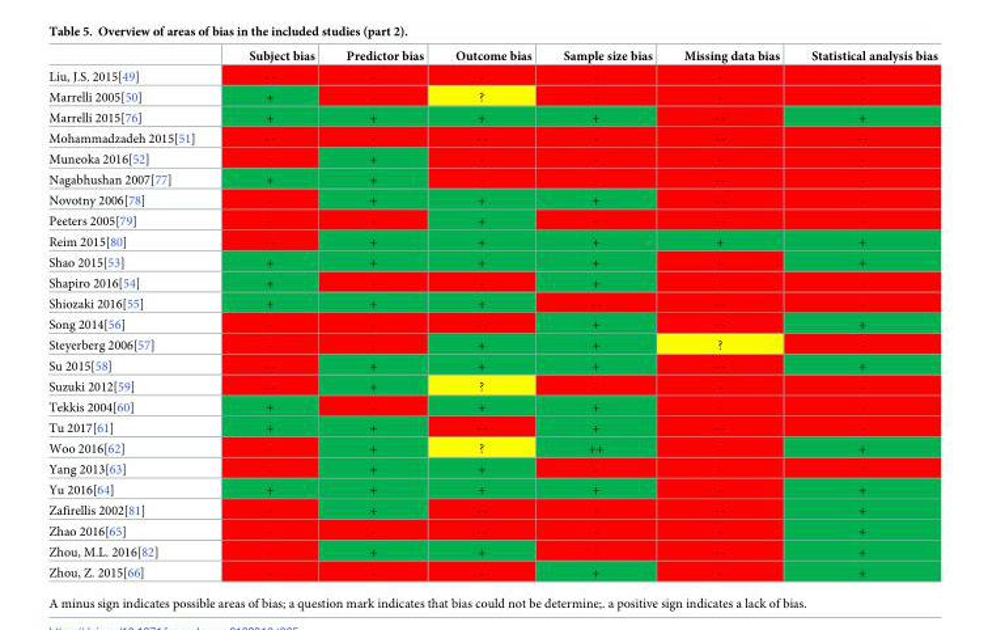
<table><thead><tr><td></td><td>Subject bias</td><td>Predictor bias</td><td>Outcome bias</td><td>Sample size bias</td><td>Missing data bias</td><td>Statistical analysis bias</td></tr></thead><tbody><tr><td>Liu, J.S. 2015[49]</td><td>--</td><td>-</td><td>-</td><td>-</td><td>-</td><td>-</td></tr><tr><td>Marrelli 2005[50]</td><td>+</td><td>-</td><td>?</td><td>-</td><td>-</td><td>-</td></tr><tr><td>Marrelli 2015[76]</td><td>+</td><td>+</td><td>+</td><td>+</td><td>--</td><td>+</td></tr><tr><td>Mohammadzadeh 2015[51]</td><td>--</td><td>-</td><td>--</td><td>-</td><td>--</td><td>--</td></tr><tr><td>Muneoka 2016[52]</td><td>-</td><td>+</td><td>-</td><td>-</td><td>-</td><td>-</td></tr><tr><td>Nagabhushan 2007[77]</td><td>+</td><td>+</td><td>-</td><td>-</td><td>--</td><td>-</td></tr><tr><td>Novotny 2006[78]</td><td>-</td><td>+</td><td>+</td><td>+</td><td>--</td><td>-</td></tr><tr><td>Peeters 2005[79]</td><td>-</td><td>-</td><td>+</td><td>-</td><td>--</td><td>-</td></tr><tr><td>Reim 2015[80]</td><td>--</td><td>+</td><td>+</td><td>+</td><td>+</td><td>+</td></tr><tr><td>Shao 2015[53]</td><td>+</td><td>+</td><td>+</td><td>+</td><td>-</td><td>+</td></tr><tr><td>Shapiro 2016[54]</td><td>+</td><td>-</td><td>-</td><td>+</td><td>-</td><td>-</td></tr><tr><td>Shiozaki 2016[55]</td><td>+</td><td>+</td><td>+</td><td>--</td><td>--</td><td>-</td></tr><tr><td>Song 2014[56]</td><td>-</td><td>-</td><td>--</td><td>+</td><td>--</td><td>+</td></tr><tr><td>Steyerberg 2006[57]</td><td>-</td><td>-</td><td>+</td><td>+</td><td>?</td><td>-</td></tr><tr><td>Su 2015[58]</td><td>--</td><td>+</td><td>+</td><td>+</td><td>--</td><td>+</td></tr><tr><td>Suzuki 2012[59]</td><td>--</td><td>+</td><td>?</td><td>-</td><td>-</td><td>-</td></tr><tr><td>Tekkis 2004[60]</td><td>+</td><td>-</td><td>+</td><td>+</td><td>-</td><td>-</td></tr><tr><td>Tu 2017[61]</td><td>+</td><td>+</td><td>--</td><td>+</td><td>--</td><td>-</td></tr><tr><td>Woo 2016[62]</td><td>-</td><td>+</td><td>?</td><td>++</td><td>-</td><td>+</td></tr><tr><td>Yang 2013[63]</td><td>-</td><td>+</td><td>+</td><td>-</td><td>-</td><td>-</td></tr><tr><td>Yu 2016[64]</td><td>+</td><td>+</td><td>+</td><td>+</td><td>-</td><td>+</td></tr><tr><td>Zafirellis 2002[81]</td><td>-</td><td>+</td><td>--</td><td>-</td><td>--</td><td>+</td></tr><tr><td>Zhao 2016[65]</td><td>-</td><td>-</td><td>--</td><td>-</td><td>-</td><td>+</td></tr><tr><td>Zhou, M.L. 2016[82]</td><td>-</td><td>+</td><td>+</td><td>-</td><td>--</td><td>+</td></tr><tr><td>Zhou, Z. 2015[66]</td><td>-</td><td>-</td><td>-</td><td>+</td><td>-</td><td>+</td></tr></tbody></table>